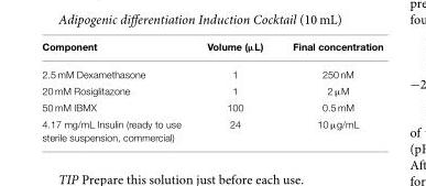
<table><thead><tr><td>Component</td><td>Volume (µL)</td><td>Final concentration</td></tr></thead><tbody><tr><td>2.5 mM Dexamethasone</td><td>1</td><td>250 nM</td></tr><tr><td>20 mM Rosiglitazone</td><td>1</td><td>2 µM</td></tr><tr><td>50 mM IBMX</td><td>100</td><td>0.5 mM</td></tr><tr><td>4.17 mg/mL Insulin (ready to use sterile suspension, commercial)</td><td>24</td><td>10 µg/mL</td></tr></tbody></table>